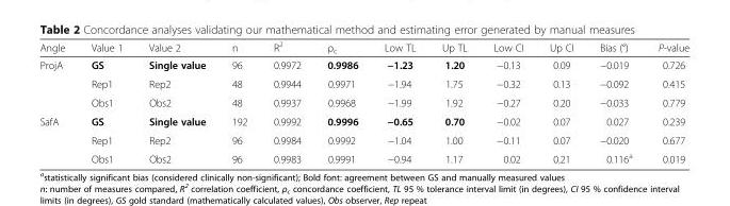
<table><thead><tr><td>Angle</td><td>Value 1</td><td>Value 2</td><td>n</td><td>R<sup>2</sup></td><td>ρ<sub>c</sub></td><td>Low TL</td><td>Up TL</td><td>Low CI</td><td>Up CI</td><td>Bias (°)</td><td>P-value</td></tr></thead><tbody><tr><td rowspan="3">ProjA</td><td>GS</td><td>Single value</td><td>96</td><td>0.9972</td><td>0.9986</td><td>−1.23</td><td>1.20</td><td>−0.13</td><td>0.09</td><td>−0.019</td><td>0.726</td></tr><tr><td>Rep1</td><td>Rep2</td><td>48</td><td>0.9944</td><td>0.9971</td><td>−1.94</td><td>1.75</td><td>−0.32</td><td>0.13</td><td>−0.092</td><td>0.415</td></tr><tr><td>Obs1</td><td>Obs2</td><td>48</td><td>0.9937</td><td>0.9968</td><td>−1.99</td><td>1.92</td><td>−0.27</td><td>0.20</td><td>−0.033</td><td>0.779</td></tr><tr><td rowspan="3">SafA</td><td>GS</td><td>Single value</td><td>192</td><td>0.9992</td><td>0.9996</td><td>−0.65</td><td>0.70</td><td>−0.02</td><td>0.07</td><td>0.027</td><td>0.239</td></tr><tr><td>Rep1</td><td>Rep2</td><td>96</td><td>0.9984</td><td>0.9992</td><td>−1.04</td><td>1.00</td><td>−0.11</td><td>0.07</td><td>−0.020</td><td>0.677</td></tr><tr><td>Obs1</td><td>Obs2</td><td>96</td><td>0.9983</td><td>0.9991</td><td>−0.94</td><td>1.17</td><td>0.02</td><td>0.21</td><td>0.116<sup>a</sup></td><td>0.019</td></tr></tbody></table>